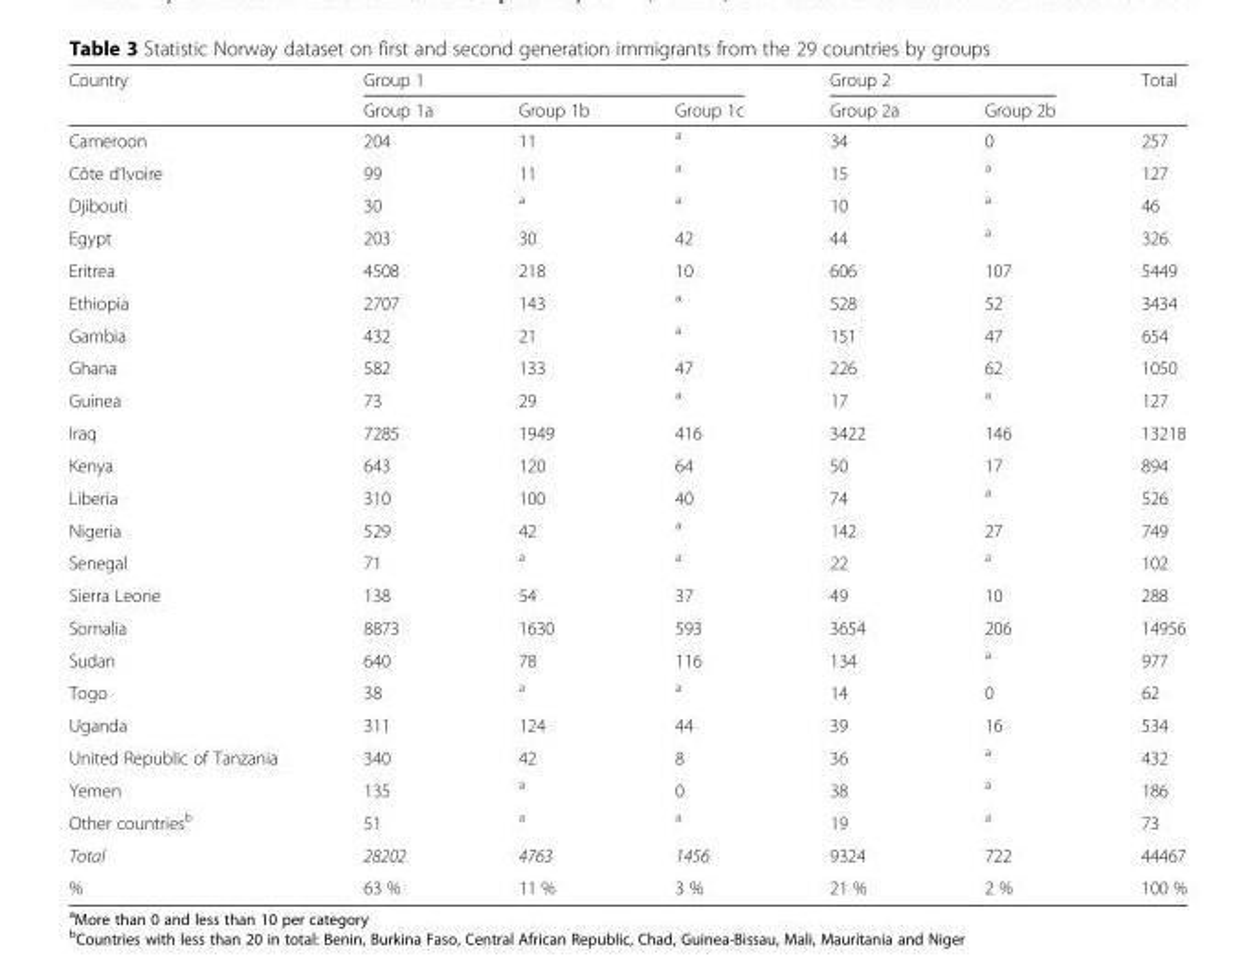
<table><thead><tr><td rowspan="2">Country</td><td colspan="3">Group 1</td><td colspan="2">Group 2</td><td rowspan="2">Total</td></tr><tr><td>Group 1a</td><td>Group 1b</td><td>Group 1c</td><td>Group 2a</td><td>Group 2b</td></tr></thead><tbody><tr><td>Cameroon</td><td>204</td><td>11</td><td><sup>a</sup></td><td>34</td><td>0</td><td>257</td></tr><tr><td>Côte d’Ivoire</td><td>99</td><td>11</td><td><sup>a</sup></td><td>15</td><td><sup>a</sup></td><td>127</td></tr><tr><td>Djibouti</td><td>30</td><td><sup>a</sup></td><td><sup>a</sup></td><td>10</td><td><sup>a</sup></td><td>46</td></tr><tr><td>Egypt</td><td>203</td><td>30</td><td>42</td><td>44</td><td><sup>a</sup></td><td>326</td></tr><tr><td>Eritrea</td><td>4508</td><td>218</td><td>10</td><td>606</td><td>107</td><td>5449</td></tr><tr><td>Ethiopia</td><td>2707</td><td>143</td><td><sup>a</sup></td><td>528</td><td>52</td><td>3434</td></tr><tr><td>Gambia</td><td>432</td><td>21</td><td><sup>a</sup></td><td>151</td><td>47</td><td>654</td></tr><tr><td>Ghana</td><td>582</td><td>133</td><td>47</td><td>226</td><td>62</td><td>1050</td></tr><tr><td>Guinea</td><td>73</td><td>29</td><td><sup>a</sup></td><td>17</td><td><sup>a</sup></td><td>127</td></tr><tr><td>Iraq</td><td>7285</td><td>1949</td><td>416</td><td>3422</td><td>146</td><td>13218</td></tr><tr><td>Kenya</td><td>643</td><td>120</td><td>64</td><td>50</td><td>17</td><td>894</td></tr><tr><td>Liberia</td><td>310</td><td>100</td><td>40</td><td>74</td><td><sup>a</sup></td><td>526</td></tr><tr><td>Nigeria</td><td>529</td><td>42</td><td><sup>a</sup></td><td>142</td><td>27</td><td>749</td></tr><tr><td>Senegal</td><td>71</td><td><sup>a</sup></td><td><sup>a</sup></td><td>22</td><td><sup>a</sup></td><td>102</td></tr><tr><td>Sierra Leone</td><td>138</td><td>54</td><td>37</td><td>49</td><td>10</td><td>288</td></tr><tr><td>Somalia</td><td>8873</td><td>1630</td><td>593</td><td>3654</td><td>206</td><td>14956</td></tr><tr><td>Sudan</td><td>640</td><td>78</td><td>116</td><td>134</td><td><sup>a</sup></td><td>977</td></tr><tr><td>Togo</td><td>38</td><td><sup>a</sup></td><td><sup>a</sup></td><td>14</td><td>0</td><td>62</td></tr><tr><td>Uganda</td><td>311</td><td>124</td><td>44</td><td>39</td><td>16</td><td>534</td></tr><tr><td>United Republic of Tanzania</td><td>340</td><td>42</td><td>8</td><td>36</td><td><sup>a</sup></td><td>432</td></tr><tr><td>Yemen</td><td>135</td><td><sup>a</sup></td><td>0</td><td>38</td><td><sup>a</sup></td><td>186</td></tr><tr><td>Other countries<sup>b</sup></td><td>51</td><td><sup>a</sup></td><td><sup>a</sup></td><td>19</td><td><sup>a</sup></td><td>73</td></tr><tr><td>Total</td><td>28202</td><td>4763</td><td>1456</td><td>9324</td><td>722</td><td>44467</td></tr><tr><td>%</td><td>63 %</td><td>11 %</td><td>3 %</td><td>21 %</td><td>2 %</td><td>100 %</td></tr></tbody></table>